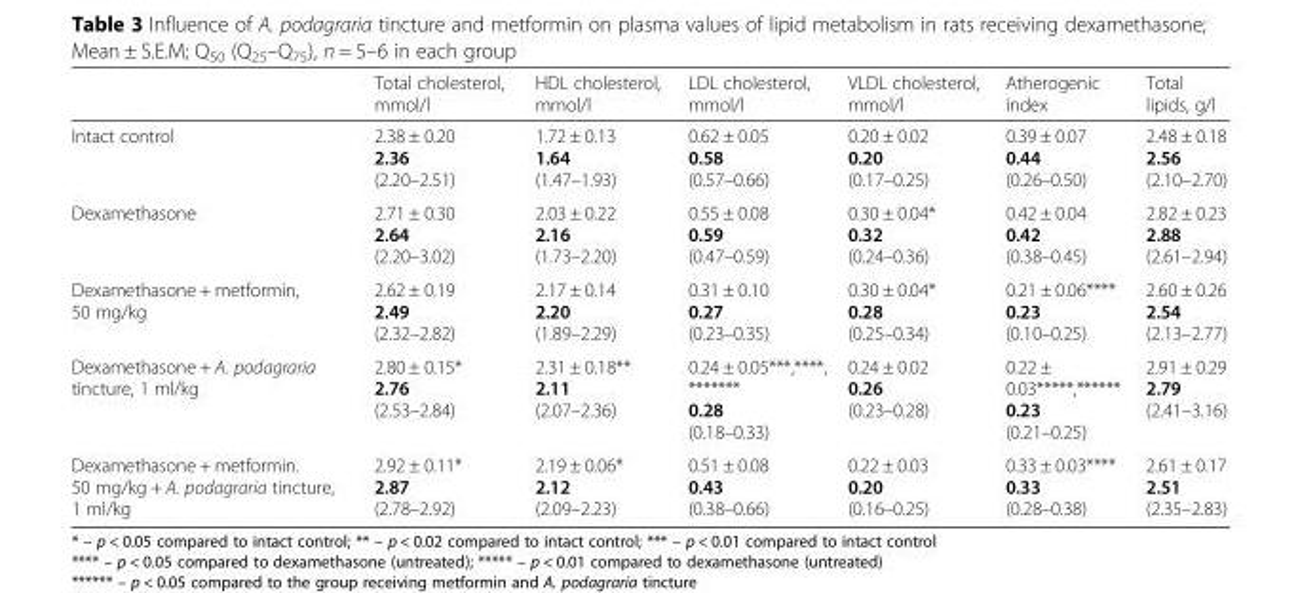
<table><thead><tr><td></td><td>Total cholesterol, mmol/l</td><td>HDL cholesterol, mmol/l</td><td>LDL cholesterol, mmol/l</td><td>VLDL cholesterol, mmol/l</td><td>Atherogenic index</td><td>Total lipids, g/l</td></tr></thead><tbody><tr><td>Intact control</td><td>2.38 ± 0.20 2.36 (2.20–2.51)</td><td>1.72 ± 0.13 1.64 (1.47–1.93)</td><td>0.62 ± 0.05 0.58 (0.57–0.66)</td><td>0.20 ± 0.02 0.20 (0.17–0.25)</td><td>0.39 ± 0.07 0.44 (0.26–0.50)</td><td>2.48 ± 0.18 2.56 (2.10–2.70)</td></tr><tr><td>Dexamethasone</td><td>2.71 ± 0.30 2.64 (2.20–3.02)</td><td>2.03 ± 0.22 2.16 (1.73–2.20)</td><td>0.55 ± 0.08 0.59 (0.47–0.59)</td><td>0.30 ± 0.04* 0.32 (0.24–0.36)</td><td>0.42 ± 0.04 0.42 (0.38–0.45)</td><td>2.82 ± 0.23 2.88 (2.61–2.94)</td></tr><tr><td>Dexamethasone + metformin, 50 mg/kg</td><td>2.62 ± 0.19 2.49 (2.32–2.82)</td><td>2.17 ± 0.14 2.20 (1.89–2.29)</td><td>0.31 ± 0.10 0.27 (0.23–0.35)</td><td>0.30 ± 0.04* 0.28 (0.25–0.34)</td><td>0.21 ± 0.06**** 0.23 (0.10–0.25)</td><td>2.60 ± 0.26 2.54 (2.13–2.77)</td></tr><tr><td>Dexamethasone + A. podagraria tincture, 1 ml/kg</td><td>2.80 ± 0.15* 2.76 (2.53–2.84)</td><td>2.31 ± 0.18** 2.11 (2.07–2.36)</td><td>0.24 ± 0.05***,****, ******* 0.28 (0.18–0.33)</td><td>0.24 ± 0.02 0.26 (0.23–0.28)</td><td>0.22 ± 0.03*****,****** 0.23 (0.21–0.25)</td><td>2.91 ± 0.29 2.79 (2.41–3.16)</td></tr><tr><td>Dexamethasone + metformin. 50 mg/kg + A. podagraria tincture, 1 ml/kg</td><td>2.92 ± 0.11* 2.87 (2.78–2.92)</td><td>2.19 ± 0.06* 2.12 (2.09–2.23)</td><td>0.51 ± 0.08 0.43 (0.38–0.66)</td><td>0.22 ± 0.03 0.20 (0.16–0.25)</td><td>0.33 ± 0.03**** 0.33 (0.28–0.38)</td><td>2.61 ± 0.17 2.51 (2.35–2.83)</td></tr></tbody></table>